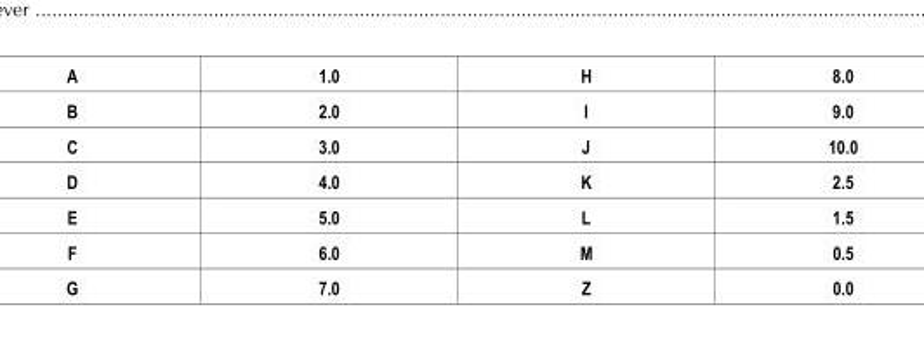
<table><tbody><tr><td>A</td><td>1.0</td><td>H</td><td>8.0</td></tr><tr><td>B</td><td>2.0</td><td>I</td><td>9.0</td></tr><tr><td>C</td><td>3.0</td><td>J</td><td>10.0</td></tr><tr><td>D</td><td>4.0</td><td>K</td><td>2.5</td></tr><tr><td>E</td><td>5.0</td><td>L</td><td>1.5</td></tr><tr><td>F</td><td>6.0</td><td>M</td><td>0.5</td></tr><tr><td>G</td><td>7.0</td><td>Z</td><td>0.0</td></tr></tbody></table>